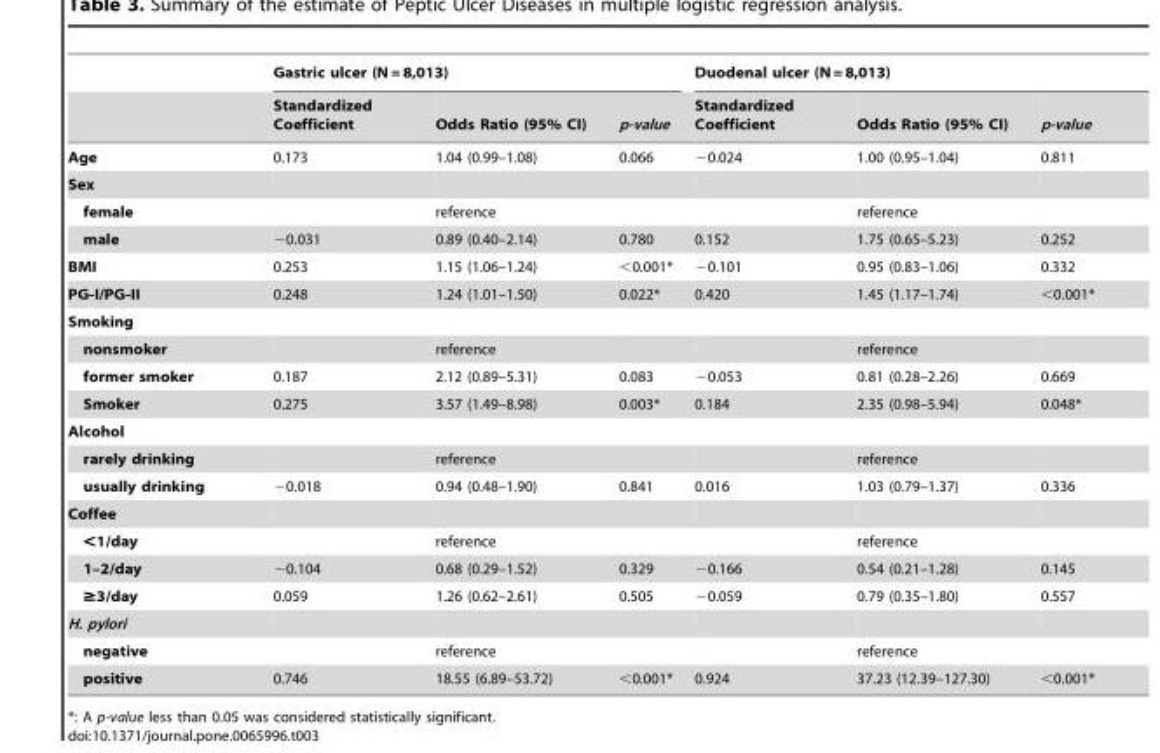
<table><thead><tr><td rowspan="2"></td><td colspan="3">Gastric ulcer (N = 8,013)</td><td colspan="3">Duodenal ulcer (N = 8,013)</td></tr><tr><td>Standardized Coefficient</td><td>Odds Ratio (95% CI)</td><td>p-value</td><td>Standardized Coefficient</td><td>Odds Ratio (95% CI)</td><td>p-value</td></tr></thead><tbody><tr><td>Age</td><td>0.173</td><td>1.04 (0.99–1.08)</td><td>0.066</td><td>−0.024</td><td>1.00 (0.95–1.04)</td><td>0.811</td></tr><tr><td colspan="7">Sex</td></tr><tr><td>female</td><td></td><td>reference</td><td></td><td></td><td>reference</td><td></td></tr><tr><td>male</td><td>−0.031</td><td>0.89 (0.40–2.14)</td><td>0.780</td><td>0.152</td><td>1.75 (0.65–5.23)</td><td>0.252</td></tr><tr><td>BMI</td><td>0.253</td><td>1.15 (1.06–1.24)</td><td>&lt;0.001*</td><td>−0.101</td><td>0.95 (0.83–1.06)</td><td>0.332</td></tr><tr><td>PG-I/PG-II</td><td>0.248</td><td>1.24 (1.01–1.50)</td><td>0.022*</td><td>0.420</td><td>1.45 (1.17–1.74)</td><td>&lt;0.001*</td></tr><tr><td colspan="7">Smoking</td></tr><tr><td>nonsmoker</td><td></td><td>reference</td><td></td><td></td><td>reference</td><td></td></tr><tr><td>former smoker</td><td>0.187</td><td>2.12 (0.89–5.31)</td><td>0.083</td><td>−0.053</td><td>0.81 (0.28–2.26)</td><td>0.669</td></tr><tr><td>Smoker</td><td>0.275</td><td>3.57 (1.49–8.98)</td><td>0.003*</td><td>0.184</td><td>2.35 (0.98–5.94)</td><td>0.048*</td></tr><tr><td colspan="7">Alcohol</td></tr><tr><td>rarely drinking</td><td></td><td>reference</td><td></td><td></td><td>reference</td><td></td></tr><tr><td>usually drinking</td><td>−0.018</td><td>0.94 (0.48–1.90)</td><td>0.841</td><td>0.016</td><td>1.03 (0.79–1.37)</td><td>0.336</td></tr><tr><td colspan="7">Coffee</td></tr><tr><td>&lt;1/day</td><td></td><td>reference</td><td></td><td></td><td>reference</td><td></td></tr><tr><td>1–2/day</td><td>−0.104</td><td>0.68 (0.29–1.52)</td><td>0.329</td><td>−0.166</td><td>0.54 (0.21–1.28)</td><td>0.145</td></tr><tr><td>≥3/day</td><td>0.059</td><td>1.26 (0.62–2.61)</td><td>0.505</td><td>−0.059</td><td>0.79 (0.35–1.80)</td><td>0.557</td></tr><tr><td colspan="7">H. pylori</td></tr><tr><td>negative</td><td></td><td>reference</td><td></td><td></td><td>reference</td><td></td></tr><tr><td>positive</td><td>0.746</td><td>18.55 (6.89–53.72)</td><td>&lt;0.001*</td><td>0.924</td><td>37.23 (12.39–127.30)</td><td>&lt;0.001*</td></tr></tbody></table>